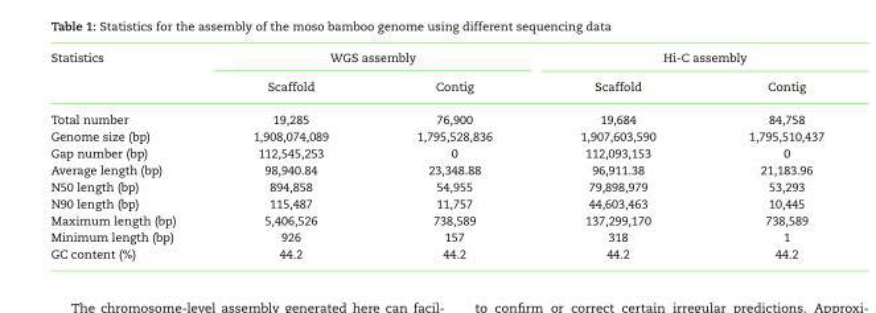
<table><thead><tr><td rowspan="2">Statistics</td><td colspan="2">WGS assembly</td><td colspan="2">Hi-C assembly</td></tr><tr><td>Scaffold</td><td>Contig</td><td>Scaffold</td><td>Contig</td></tr></thead><tbody><tr><td>Total number</td><td>19,285</td><td>76,900</td><td>19,684</td><td>84,758</td></tr><tr><td>Genome size (bp)</td><td>1,908,074,089</td><td>1,795,528,836</td><td>1,907,603,590</td><td>1,795,510,437</td></tr><tr><td>Gap number (bp)</td><td>112,545,253</td><td>0</td><td>112,093,153</td><td>0</td></tr><tr><td>Average length (bp)</td><td>98,940.84</td><td>23,348.88</td><td>96,911.38</td><td>21,183.96</td></tr><tr><td>N50 length (bp)</td><td>894,858</td><td>54,955</td><td>79,898,979</td><td>53,293</td></tr><tr><td>N90 length (bp)</td><td>115,487</td><td>11,757</td><td>44,603,463</td><td>10,445</td></tr><tr><td>Maximum length (bp)</td><td>5,406,526</td><td>738,589</td><td>137,299,170</td><td>738,589</td></tr><tr><td>Minimum length (bp)</td><td>926</td><td>157</td><td>318</td><td>1</td></tr><tr><td>GC content (%)</td><td>44.2</td><td>44.2</td><td>44.2</td><td>44.2</td></tr></tbody></table>